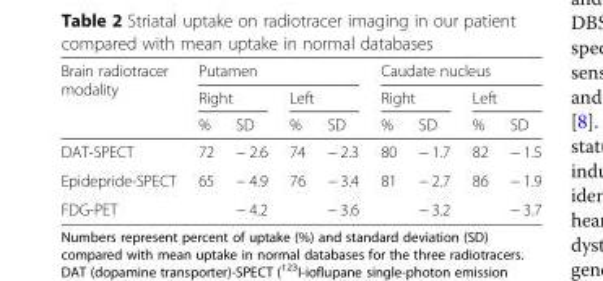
<table><thead><tr><td rowspan="3">Brain radiotracer modality</td><td colspan="4">Putamen</td><td colspan="4">Caudate nucleus</td></tr><tr><td colspan="2">Right</td><td colspan="2">Left</td><td colspan="2">Right</td><td colspan="2">Left</td></tr><tr><td>%</td><td>SD</td><td>%</td><td>SD</td><td>%</td><td>SD</td><td>%</td><td>SD</td></tr></thead><tbody><tr><td>DAT-SPECT</td><td>72</td><td>− 2.6</td><td>74</td><td>− 2.3</td><td>80</td><td>− 1.7</td><td>82</td><td>− 1.5</td></tr><tr><td>Epidepride-SPECT</td><td>65</td><td>− 4.9</td><td>76</td><td>− 3.4</td><td>81</td><td>− 2.7</td><td>86</td><td>− 1.9</td></tr><tr><td>FDG-PET</td><td></td><td>− 4.2</td><td></td><td>− 3.6</td><td></td><td>− 3.2</td><td></td><td>− 3.7</td></tr></tbody></table>